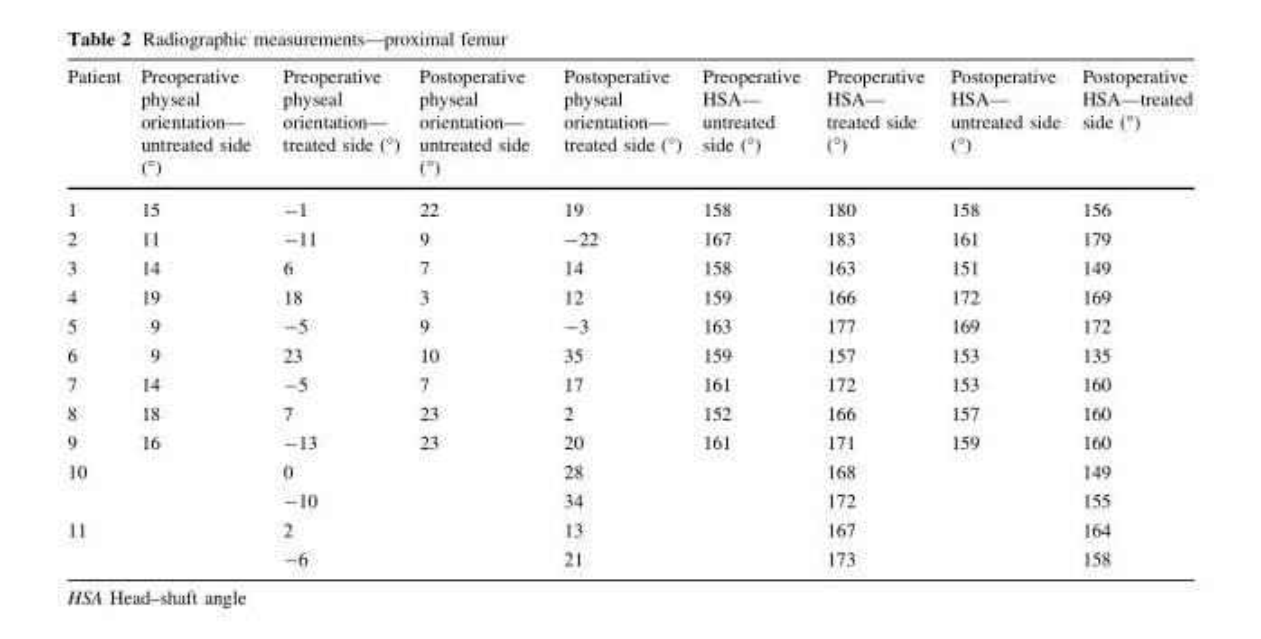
<table><thead><tr><td>Patient</td><td>Preoperative physeal orientation— untreated side (°)</td><td>Preoperative physeal orientation— treated side (°)</td><td>Postoperative physeal orientation— untreated side (°)</td><td>Postoperative physeal orientation— treated side (°)</td><td>Preoperative HSA— untreated side (°)</td><td>Preoperative HSA— treated side (°)</td><td>Postoperative HSA— untreated side (°)</td><td>Postoperative HSA—treated side (°)</td></tr></thead><tbody><tr><td>1</td><td>15</td><td>-1</td><td>22</td><td>19</td><td>158</td><td>180</td><td>158</td><td>156</td></tr><tr><td>2</td><td>11</td><td>-11</td><td>9</td><td>-22</td><td>167</td><td>183</td><td>161</td><td>179</td></tr><tr><td>3</td><td>14</td><td>6</td><td>7</td><td>14</td><td>158</td><td>163</td><td>151</td><td>149</td></tr><tr><td>4</td><td>19</td><td>18</td><td>3</td><td>12</td><td>159</td><td>166</td><td>172</td><td>169</td></tr><tr><td>5</td><td>9</td><td>-5</td><td>9</td><td>-3</td><td>163</td><td>177</td><td>169</td><td>172</td></tr><tr><td>6</td><td>9</td><td>23</td><td>10</td><td>35</td><td>159</td><td>157</td><td>153</td><td>135</td></tr><tr><td>7</td><td>14</td><td>-5</td><td>7</td><td>17</td><td>161</td><td>172</td><td>153</td><td>160</td></tr><tr><td>8</td><td>18</td><td>7</td><td>23</td><td>2</td><td>152</td><td>166</td><td>157</td><td>160</td></tr><tr><td>9</td><td>16</td><td>-13</td><td>23</td><td>20</td><td>161</td><td>171</td><td>159</td><td>160</td></tr><tr><td rowspan="2">10</td><td></td><td>0</td><td></td><td>28</td><td></td><td>168</td><td></td><td>149</td></tr><tr><td></td><td>-10</td><td></td><td>34</td><td></td><td>172</td><td></td><td>155</td></tr><tr><td rowspan="2">11</td><td></td><td>2</td><td></td><td>13</td><td></td><td>167</td><td></td><td>164</td></tr><tr><td></td><td>-6</td><td></td><td>21</td><td></td><td>173</td><td></td><td>158</td></tr></tbody></table>